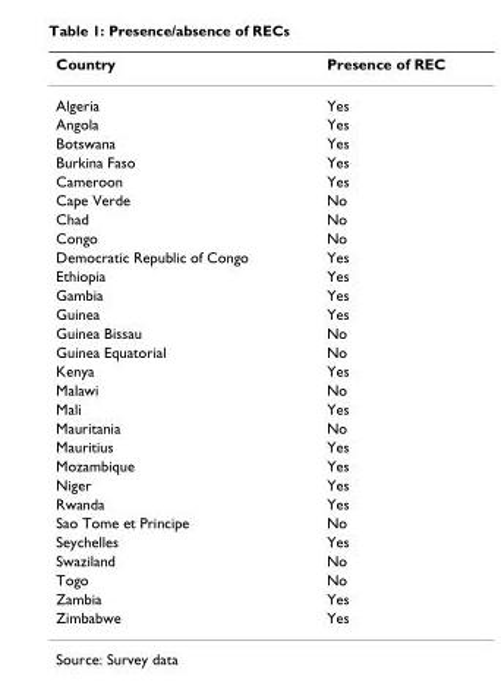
<table><thead><tr><td>Country</td><td>Presence of REC</td></tr></thead><tbody><tr><td>Algeria</td><td>Yes</td></tr><tr><td>Angola</td><td>Yes</td></tr><tr><td>Botswana</td><td>Yes</td></tr><tr><td>Burkina Faso</td><td>Yes</td></tr><tr><td>Cameroon</td><td>Yes</td></tr><tr><td>Cape Verde</td><td>No</td></tr><tr><td>Chad</td><td>No</td></tr><tr><td>Congo</td><td>No</td></tr><tr><td>Democratic Republic of Congo</td><td>Yes</td></tr><tr><td>Ethiopia</td><td>Yes</td></tr><tr><td>Gambia</td><td>Yes</td></tr><tr><td>Guinea</td><td>Yes</td></tr><tr><td>Guinea Bissau</td><td>No</td></tr><tr><td>Guinea Equatorial</td><td>No</td></tr><tr><td>Kenya</td><td>Yes</td></tr><tr><td>Malawi</td><td>No</td></tr><tr><td>Mali</td><td>Yes</td></tr><tr><td>Mauritania</td><td>No</td></tr><tr><td>Mauritius</td><td>Yes</td></tr><tr><td>Mozambique</td><td>Yes</td></tr><tr><td>Niger</td><td>Yes</td></tr><tr><td>Rwanda</td><td>Yes</td></tr><tr><td>Sao Tome et Principe</td><td>No</td></tr><tr><td>Seychelles</td><td>Yes</td></tr><tr><td>Swaziland</td><td>No</td></tr><tr><td>Togo</td><td>No</td></tr><tr><td>Zambia</td><td>Yes</td></tr><tr><td>Zimbabwe</td><td>Yes</td></tr></tbody></table>